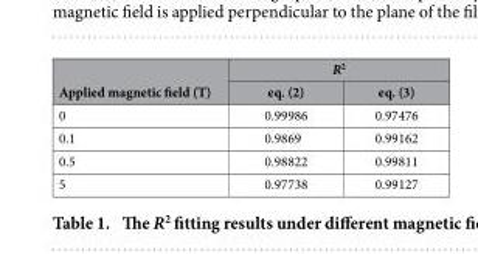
<table><thead><tr><td rowspan="2">Applied magnetic field (T)</td><td colspan="2">R<sup>2</sup></td></tr><tr><td>eq. (2)</td><td>eq. (3)</td></tr></thead><tbody><tr><td>0</td><td>0.99986</td><td>0.97476</td></tr><tr><td>0.1</td><td>0.9869</td><td>0.99162</td></tr><tr><td>0.5</td><td>0.98822</td><td>0.99811</td></tr><tr><td>5</td><td>0.97738</td><td>0.99127</td></tr></tbody></table>